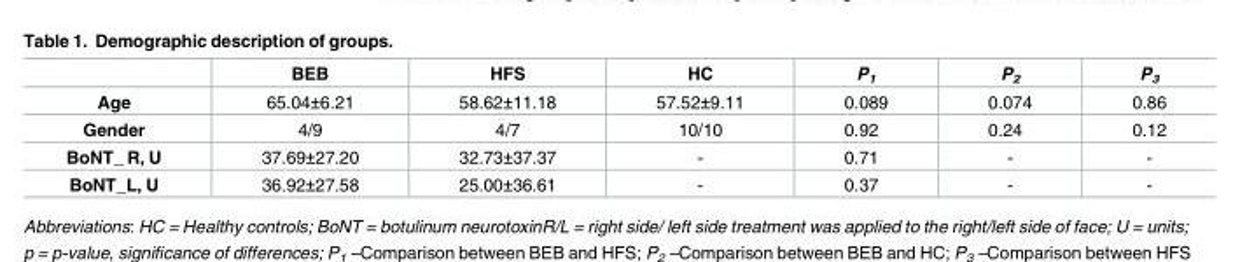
<table><thead><tr><td></td><td>BEB</td><td>HFS</td><td>HC</td><td>P<sub>1</sub></td><td>P<sub>2</sub></td><td>P<sub>3</sub></td></tr></thead><tbody><tr><td>Age</td><td>65.04±6.21</td><td>58.62±11.18</td><td>57.52±9.11</td><td>0.089</td><td>0.074</td><td>0.86</td></tr><tr><td>Gender</td><td>4/9</td><td>4/7</td><td>10/10</td><td>0.92</td><td>0.24</td><td>0.12</td></tr><tr><td>BoNT_ R, U</td><td>37.69±27.20</td><td>32.73±37.37</td><td>-</td><td>0.71</td><td>-</td><td>-</td></tr><tr><td>BoNT_L, U</td><td>36.92±27.58</td><td>25.00±36.61</td><td>-</td><td>0.37</td><td>-</td><td>-</td></tr></tbody></table>